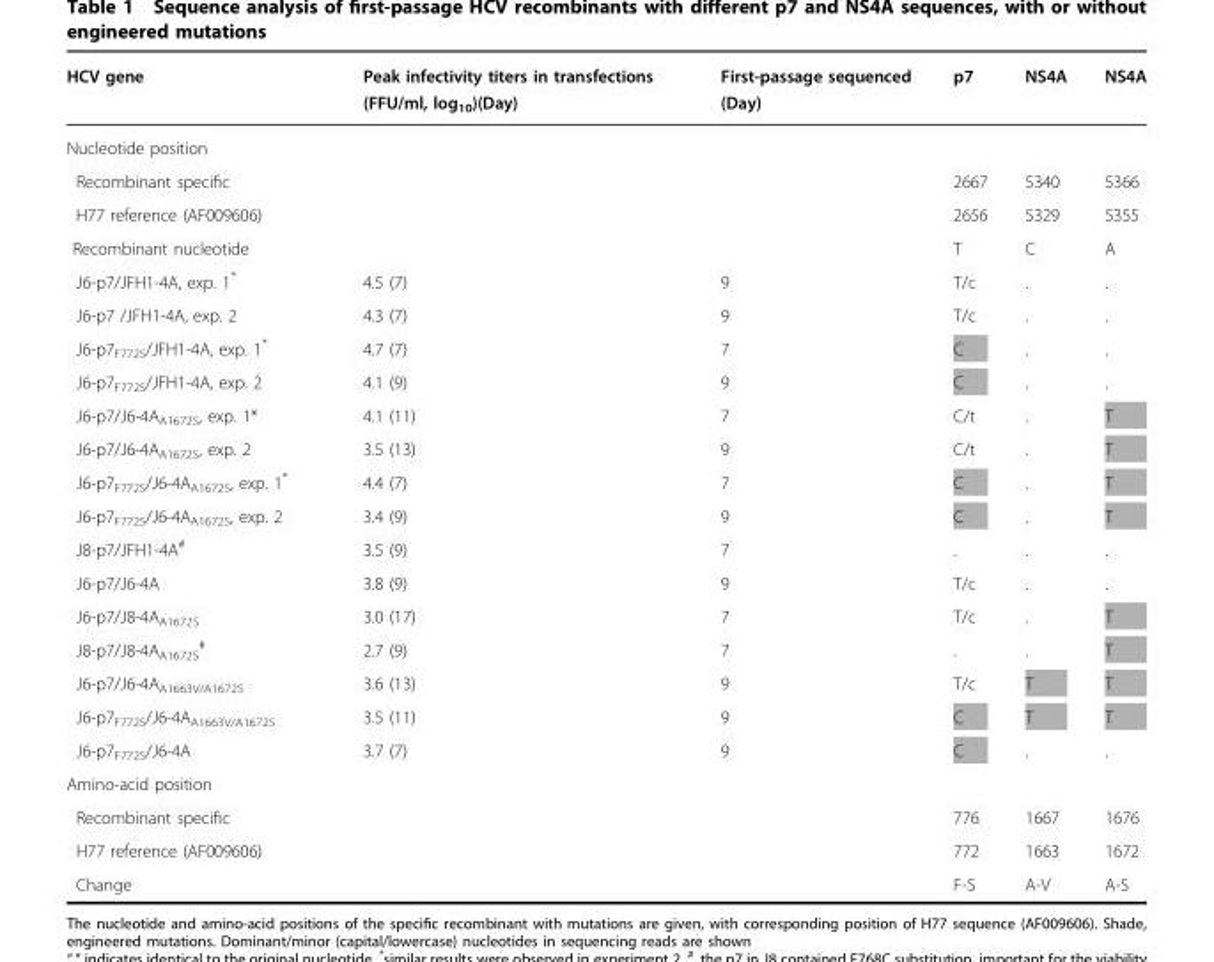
<table><thead><tr><td>HCV gene</td><td>Peak infectivity titers in transfections (FFU/ml, log<sub>10</sub>)(Day)</td><td>First-passage sequenced (Day)</td><td>p7</td><td>NS4A</td><td>NS4A</td></tr></thead><tbody><tr><td colspan="6">Nucleotide position</td></tr><tr><td>Recombinant specific</td><td></td><td></td><td>2667</td><td>5340</td><td>5366</td></tr><tr><td>H77 reference (AF009606)</td><td></td><td></td><td>2656</td><td>5329</td><td>5355</td></tr><tr><td>Recombinant nucleotide</td><td></td><td></td><td>T</td><td>C</td><td>A</td></tr><tr><td>J6-p7/JFH1-4A, exp. 1*</td><td>4.5 (7)</td><td>9</td><td>T/c</td><td>.</td><td>.</td></tr><tr><td>J6-p7 /JFH1-4A, exp. 2</td><td>4.3 (7)</td><td>9</td><td>T/c</td><td>.</td><td>.</td></tr><tr><td>J6-p7<sub>F772S</sub>/JFH1-4A, exp. 1*</td><td>4.7 (7)</td><td>7</td><td>C</td><td>.</td><td>.</td></tr><tr><td>J6-p7<sub>F772S</sub>/JFH1-4A, exp. 2</td><td>4.1 (9)</td><td>9</td><td>C</td><td>.</td><td>.</td></tr><tr><td>J6-p7/J6-4A<sub>A1672S</sub>, exp. 1*</td><td>4.1 (11)</td><td>7</td><td>C/t</td><td>.</td><td>T</td></tr><tr><td>J6-p7/J6-4A<sub>A1672S</sub>, exp. 2</td><td>3.5 (13)</td><td>9</td><td>C/t</td><td>.</td><td>T</td></tr><tr><td>J6-p7<sub>F772S</sub>/J6-4A<sub>A1672S</sub>, exp. 1*</td><td>4.4 (7)</td><td>7</td><td>C</td><td>.</td><td>T</td></tr><tr><td>J6-p7<sub>F772S</sub>/J6-4A<sub>A1672S</sub>, exp. 2</td><td>3.4 (9)</td><td>9</td><td>C</td><td>.</td><td>T</td></tr><tr><td>J8-p7/JFH1-4A<sup>#</sup></td><td>3.5 (9)</td><td>7</td><td>.</td><td>.</td><td>.</td></tr><tr><td>J6-p7/J6-4A</td><td>3.8 (9)</td><td>9</td><td>T/c</td><td>.</td><td>.</td></tr><tr><td>J6-p7/J8-4A<sub>A1672S</sub></td><td>3.0 (17)</td><td>7</td><td>T/c</td><td>.</td><td>T</td></tr><tr><td>J8-p7/J8-4A<sub>A1672S</sub> <sup>#</sup></td><td>2.7 (9)</td><td>7</td><td>.</td><td>.</td><td>T</td></tr><tr><td>J6-p7/J6-4A<sub>A1663V/A1672S</sub></td><td>3.6 (13)</td><td>9</td><td>T/c</td><td>T</td><td>T</td></tr><tr><td>J6-p7<sub>F772S</sub>/J6-4A<sub>A1663V/A1672S</sub></td><td>3.5 (11)</td><td>9</td><td>C</td><td>T</td><td>T</td></tr><tr><td>J6-p7<sub>F772S</sub>/J6-4A</td><td>3.7 (7)</td><td>9</td><td>C</td><td>.</td><td>.</td></tr><tr><td colspan="6">Amino-acid position</td></tr><tr><td>Recombinant specific</td><td></td><td></td><td>776</td><td>1667</td><td>1676</td></tr><tr><td>H77 reference (AF009606)</td><td></td><td></td><td>772</td><td>1663</td><td>1672</td></tr><tr><td>Change</td><td></td><td></td><td>F-S</td><td>A-V</td><td>A-S</td></tr></tbody></table>